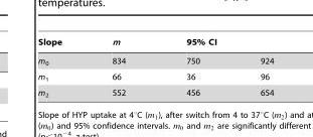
<table><thead><tr><td rowspan="2">Slope m<sub>0</sub></td><td rowspan="2">m 834</td><td colspan="2">95% CI</td></tr><tr><td>750</td><td>924</td></tr></thead><tbody><tr><td>m<sub>1</sub></td><td>66</td><td>36</td><td>96</td></tr><tr><td>m<sub>2</sub></td><td>552</td><td>456</td><td>654</td></tr></tbody></table>